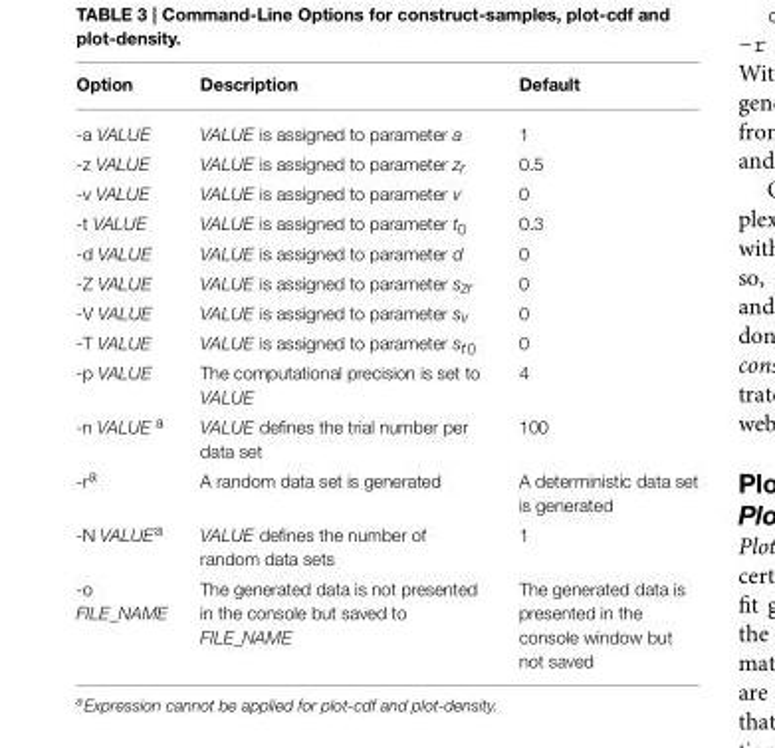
<table><thead><tr><td>Option</td><td>Description</td><td>Default</td></tr></thead><tbody><tr><td>-a VALUE</td><td>VALUE is assigned to parameter a</td><td>1</td></tr><tr><td>-z VALUE</td><td>VALUE is assigned to parameter zr</td><td>0.5</td></tr><tr><td>-v VALUE</td><td>VALUE is assigned to parameter v</td><td>0</td></tr><tr><td>-t VALUE</td><td>VALUE is assigned to parameter t<sub>0</sub></td><td>0.3</td></tr><tr><td>-d VALUE</td><td>VALUE is assigned to parameter d</td><td>0</td></tr><tr><td>-Z VALUE</td><td>VALUE is assigned to parameter szr</td><td>0</td></tr><tr><td>-V VALUE</td><td>VALUE is assigned to parameter sv</td><td>0</td></tr><tr><td>-T VALUE</td><td>VALUE is assigned to parameter st0</td><td>0</td></tr><tr><td>-p VALUE</td><td>The computational precision is set to VALUE</td><td>4</td></tr><tr><td>-n VALUE <sup>a</sup></td><td>VALUE defines the trial number per data set</td><td>100</td></tr><tr><td>-r<sup>a</sup></td><td>A random data set is generated</td><td>A deterministic data set is generated</td></tr><tr><td>-N VALUE<sup>a</sup></td><td>VALUE defines the number of random data sets</td><td>1</td></tr><tr><td>-o FILE_NAME</td><td>The generated data is not presented in the console but saved to FILE_NAME</td><td>The generated data is presented in the console window but not saved</td></tr></tbody></table>